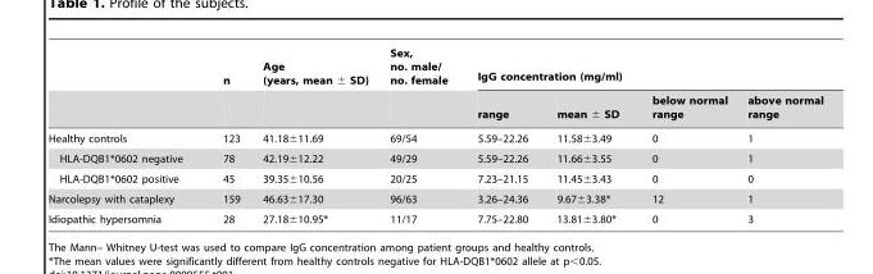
<table><thead><tr><td rowspan="2"></td><td rowspan="2">n</td><td rowspan="2">Age (years, mean ± SD)</td><td rowspan="2">Sex, no. male/ no. female</td><td colspan="4">IgG concentration (mg/ml)</td></tr><tr><td>range</td><td>mean ± SD</td><td>below normal range</td><td>above normal range</td></tr></thead><tbody><tr><td>Healthy controls</td><td>123</td><td>41.18±11.69</td><td>69/54</td><td>5.59–22.26</td><td>11.58±3.49</td><td>0</td><td>1</td></tr><tr><td>HLA-DQB1*0602 negative</td><td>78</td><td>42.19±12.22</td><td>49/29</td><td>5.59–22.26</td><td>11.66±3.55</td><td>0</td><td>1</td></tr><tr><td>HLA-DQB1*0602 positive</td><td>45</td><td>39.35±10.56</td><td>20/25</td><td>7.23–21.15</td><td>11.45±3.43</td><td>0</td><td>0</td></tr><tr><td>Narcolepsy with cataplexy</td><td>159</td><td>46.63±17.30</td><td>96/63</td><td>3.26–24.36</td><td>9.67±3.38*</td><td>12</td><td>1</td></tr><tr><td>Idiopathic hypersomnia</td><td>28</td><td>27.18±10.95*</td><td>11/17</td><td>7.75–22.80</td><td>13.81±3.80*</td><td>0</td><td>3</td></tr></tbody></table>